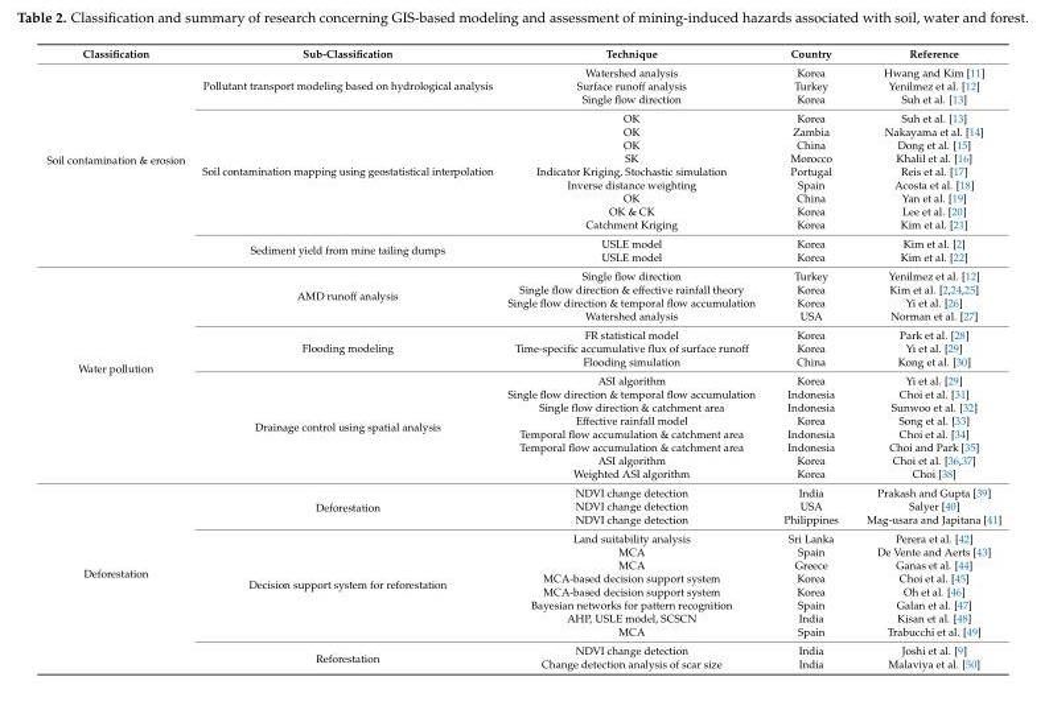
<table><thead><tr><td>Classification</td><td>Sub-Classification</td><td>Technique</td><td>Country</td><td>Reference</td></tr></thead><tbody><tr><td rowspan="14">Soil contamination &amp; erosion</td><td rowspan="3">Pollutant transport modeling based on hydrological analysis</td><td>Watershed analysis</td><td>Korea</td><td>Hwang and Kim [11]</td></tr><tr><td>Surface runoff analysis</td><td>Turkey</td><td>Yenilmez et al. [12]</td></tr><tr><td>Single flow direction</td><td>Korea</td><td>Suh et al. [13]</td></tr><tr><td rowspan="9">Soil contamination mapping using geostatistical interpolation</td><td>OK</td><td>Korea</td><td>Suh et al. [13]</td></tr><tr><td>OK</td><td>Zambia</td><td>Nakayama et al. [14]</td></tr><tr><td>OK</td><td>China</td><td>Dong et al. [15]</td></tr><tr><td>SK</td><td>Morocco</td><td>Khalil et al. [16]</td></tr><tr><td>Indicator Kriging, Stochastic simulation</td><td>Portugal</td><td>Reis et al. [17]</td></tr><tr><td>Inverse distance weighting</td><td>Spain</td><td>Acosta et al. [18]</td></tr><tr><td>OK</td><td>China</td><td>Yan et al. [19]</td></tr><tr><td>OK &amp; CK</td><td>Korea</td><td>Lee et al. [20]</td></tr><tr><td>Catchment Kriging</td><td>Korea</td><td>Kim et al. [21]</td></tr><tr><td rowspan="2">Sediment yield from mine tailing dumps</td><td>USLE model</td><td>Korea</td><td>Kim et al. [2]</td></tr><tr><td>USLE model</td><td>Korea</td><td>Kim et al. [22]</td></tr><tr><td rowspan="15">Water pollution</td><td rowspan="4">AMD runoff analysis</td><td>Single flow direction</td><td>Turkey</td><td>Yenilmez et al. [12]</td></tr><tr><td>Single flow direction &amp; effective rainfall theory</td><td>Korea</td><td>Kim et al. [2,24,25]</td></tr><tr><td>Single flow direction &amp; temporal flow accumulation</td><td>Korea</td><td>Yi et al. [26]</td></tr><tr><td>Watershed analysis</td><td>USA</td><td>Norman et al. [27]</td></tr><tr><td rowspan="3">Flooding modeling</td><td>FR statistical model</td><td>Korea</td><td>Park et al. [28]</td></tr><tr><td>Time-specific accumulative flux of surface runoff</td><td>Korea</td><td>Yi et al. [29]</td></tr><tr><td>Flooding simulation</td><td>China</td><td>Kong et al. [30]</td></tr><tr><td rowspan="8">Drainage control using spatial analysis</td><td>ASI algorithm</td><td>Korea</td><td>Yi et al. [29]</td></tr><tr><td>Single flow direction &amp; temporal flow accumulation</td><td>Indonesia</td><td>Choi et al. [31]</td></tr><tr><td>Single flow direction &amp; catchment area</td><td>Indonesia</td><td>Sunwoo et al. [32]</td></tr><tr><td>Effective rainfall model</td><td>Korea</td><td>Song et al. [33]</td></tr><tr><td>Temporal flow accumulation &amp; catchment area</td><td>Indonesia</td><td>Choi et al. [34]</td></tr><tr><td>Temporal flow accumulation &amp; catchment area</td><td>Indonesia</td><td>Choi and Park [35]</td></tr><tr><td>ASI algorithm</td><td>Korea</td><td>Choi et al. [36,37]</td></tr><tr><td>Weighted ASI algorithm</td><td>Korea</td><td>Choi [38]</td></tr><tr><td rowspan="13">Deforestation</td><td rowspan="3">Deforestation</td><td>NDVI change detection</td><td>India</td><td>Prakash and Gupta [39]</td></tr><tr><td>NDVI change detection</td><td>USA</td><td>Salyer [40]</td></tr><tr><td>NDVI change detection</td><td>Philippines</td><td>Mag-usara and Japitana [41]</td></tr><tr><td rowspan="8">Decision support system for reforestation</td><td>Land suitability analysis</td><td>Sri Lanka</td><td>Perera et al. [42]</td></tr><tr><td>MCA</td><td>Spain</td><td>De Vente and Aerts [43]</td></tr><tr><td>MCA</td><td>Greece</td><td>Ganas et al. [44]</td></tr><tr><td>MCA-based decision support system</td><td>Korea</td><td>Choi et al. [45]</td></tr><tr><td>MCA-based decision support system</td><td>Korea</td><td>Oh et al. [46]</td></tr><tr><td>Bayesian networks for pattern recognition</td><td>Spain</td><td>Galan et al. [47]</td></tr><tr><td>AHP, USLE model, SCSCN</td><td>India</td><td>Kisan et al. [48]</td></tr><tr><td>MCA</td><td>Spain</td><td>Trabucchi et al. [49]</td></tr><tr><td rowspan="2">Reforestation</td><td>NDVI change detection</td><td>India</td><td>Joshi et al. [9]</td></tr><tr><td>Change detection analysis of scar size</td><td>India</td><td>Malaviya et al. [50]</td></tr></tbody></table>